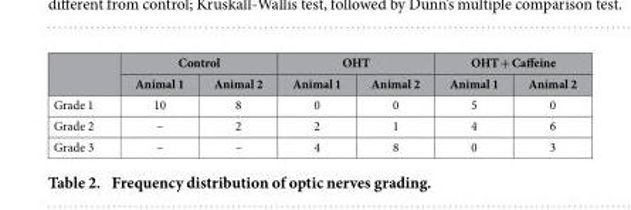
<table><thead><tr><td rowspan="2"></td><td colspan="2">Control</td><td colspan="2">OHT</td><td colspan="2">OHT + Caffeine</td></tr><tr><td>Animal 1</td><td>Animal 2</td><td>Animal 1</td><td>Animal 2</td><td>Animal 1</td><td>Animal 2</td></tr></thead><tbody><tr><td>Grade 1</td><td>10</td><td>8</td><td>0</td><td>0</td><td>5</td><td>0</td></tr><tr><td>Grade 2</td><td>–</td><td>2</td><td>2</td><td>1</td><td>4</td><td>6</td></tr><tr><td>Grade 3</td><td>–</td><td>–</td><td>4</td><td>8</td><td>0</td><td>3</td></tr></tbody></table>